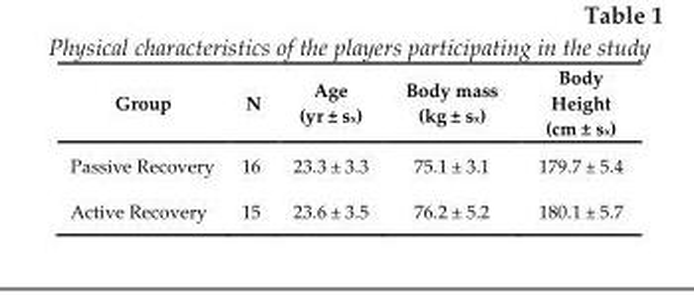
<table><thead><tr><td>Group</td><td>N</td><td>Age (yr ± sx)</td><td>Body mass (kg ± sx)</td><td>Body Height (cm ± sx)</td></tr></thead><tbody><tr><td>Passive Recovery</td><td>16</td><td>23.3 ± 3.3</td><td>75.1 ± 3.1</td><td>179.7 ± 5.4</td></tr><tr><td>Active Recovery</td><td>15</td><td>23.6 ± 3.5</td><td>76.2 ± 5.2</td><td>180.1 ± 5.7</td></tr></tbody></table>